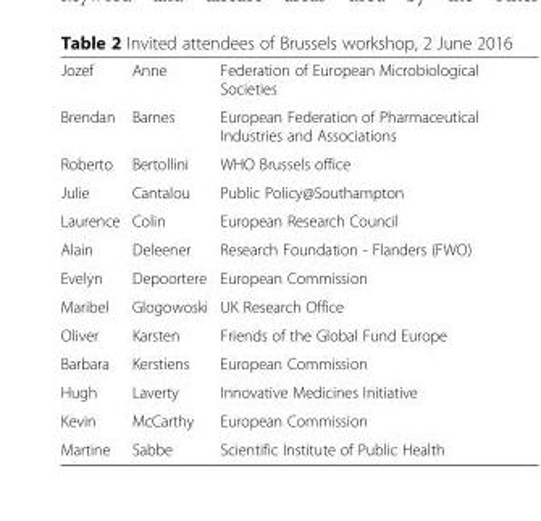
<table><tbody><tr><td>Jozef</td><td>Anne</td><td>Federation of European Microbiological Societies</td></tr><tr><td>Brendan</td><td>Barnes</td><td>European Federation of Pharmaceutical Industries and Associations</td></tr><tr><td>Roberto</td><td>Bertollini</td><td>WHO Brussels office</td></tr><tr><td>Julie</td><td>Cantalou</td><td>Public Policy@Southampton</td></tr><tr><td>Laurence</td><td>Colin</td><td>European Research Council</td></tr><tr><td>Alain</td><td>Deleener</td><td>Research Foundation - Flanders (FWO)</td></tr><tr><td>Evelyn</td><td>Depoortere</td><td>European Commission</td></tr><tr><td>Maribel</td><td>Glogowoski</td><td>UK Research Office</td></tr><tr><td>Oliver</td><td>Karsten</td><td>Friends of the Global Fund Europe</td></tr><tr><td>Barbara</td><td>Kerstiens</td><td>European Commission</td></tr><tr><td>Hugh</td><td>Laverty</td><td>Innovative Medicines Initiative</td></tr><tr><td>Kevin</td><td>McCarthy</td><td>European Commission</td></tr><tr><td>Martine</td><td>Sabbe</td><td>Scientific Institute of Public Health</td></tr></tbody></table>